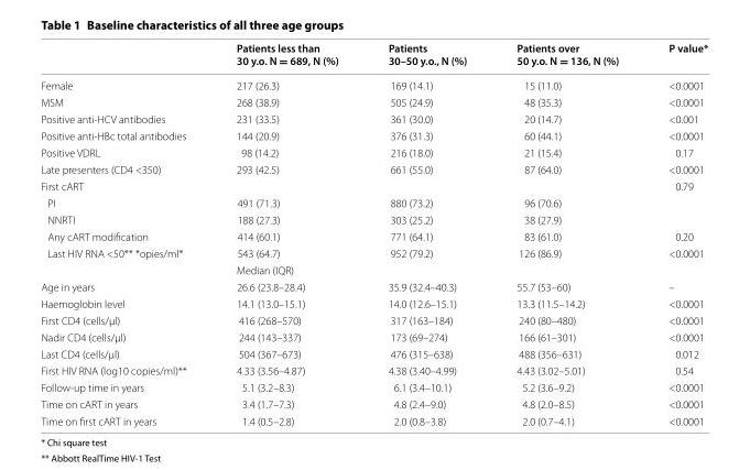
<table><thead><tr><td></td><td>Patients less than 30 y.o. N = 689, N (%)</td><td>Patients 30–50 y.o., N (%)</td><td>Patients over 50 y.o. N = 136, N (%)</td><td>P value*</td></tr></thead><tbody><tr><td>Female</td><td>217 (26.3)</td><td>169 (14.1)</td><td>15 (11.0)</td><td>&lt;0.0001</td></tr><tr><td>MSM</td><td>268 (38.9)</td><td>505 (24.9)</td><td>48 (35.3)</td><td>&lt;0.0001</td></tr><tr><td>Positive anti‑HCV antibodies</td><td>231 (33.5)</td><td>361 (30.0)</td><td>20 (14.7)</td><td>&lt;0.001</td></tr><tr><td>Positive anti‑HBc total antibodies</td><td>144 (20.9)</td><td>376 (31.3)</td><td>60 (44.1)</td><td>&lt;0.0001</td></tr><tr><td>Positive VDRL</td><td>98 (14.2)</td><td>216 (18.0)</td><td>21 (15.4)</td><td>0.17</td></tr><tr><td>Late presenters (CD4 &lt;350)</td><td>293 (42.5)</td><td>661 (55.0)</td><td>87 (64.0)</td><td>&lt;0.0001</td></tr><tr><td>First cART</td><td></td><td></td><td></td><td>0.79</td></tr><tr><td>PI</td><td>491 (71.3)</td><td>880 (73.2)</td><td>96 (70.6)</td><td></td></tr><tr><td>NNRTI</td><td>188 (27.3)</td><td>303 (25.2)</td><td>38 (27.9)</td><td></td></tr><tr><td>Any cART modification</td><td>414 (60.1)</td><td>771 (64.1)</td><td>83 (61.0)</td><td>0.20</td></tr><tr><td rowspan="2">Last HIV RNA &lt;50** *opies/ml*</td><td>543 (64.7)</td><td>952 (79.2)</td><td>126 (86.9)</td><td>&lt;0.0001</td></tr><tr><td colspan="3">Median (IQR)</td><td></td></tr><tr><td>Age in years</td><td>26.6 (23.8–28.4)</td><td>35.9 (32.4–40.3)</td><td>55.7 (53–60)</td><td>–</td></tr><tr><td>Haemoglobin level</td><td>14.1 (13.0–15.1)</td><td>14.0 (12.6–15.1)</td><td>13.3 (11.5–14.2)</td><td>&lt;0.0001</td></tr><tr><td>First CD4 (cells/µl)</td><td>416 (268–570)</td><td>317 (163–184)</td><td>240 (80–480)</td><td>&lt;0.0001</td></tr><tr><td>Nadir CD4 (cells/µl)</td><td>244 (143–337)</td><td>173 (69–274)</td><td>166 (61–301)</td><td>&lt;0.0001</td></tr><tr><td>Last CD4 (cells/µl)</td><td>504 (367–673)</td><td>476 (315–638)</td><td>488 (356–631)</td><td>0.012</td></tr><tr><td>First HIV RNA (log10 copies/ml)**</td><td>4.33 (3.56–4.87)</td><td>4.38 (3.40–4.99)</td><td>4.43 (3.02–5.01)</td><td>0.54</td></tr><tr><td>Follow‑up time in years</td><td>5.1 (3.2–8.3)</td><td>6.1 (3.4–10.1)</td><td>5.2 (3.6–9.2)</td><td>&lt;0.0001</td></tr><tr><td>Time on cART in years</td><td>3.4 (1.7–7.3)</td><td>4.8 (2.4–9.0)</td><td>4.8 (2.0–8.5)</td><td>&lt;0.0001</td></tr><tr><td>Time on first cART in years</td><td>1.4 (0.5–2.8)</td><td>2.0 (0.8–3.8)</td><td>2.0 (0.7–4.1)</td><td>&lt;0.0001</td></tr></tbody></table>